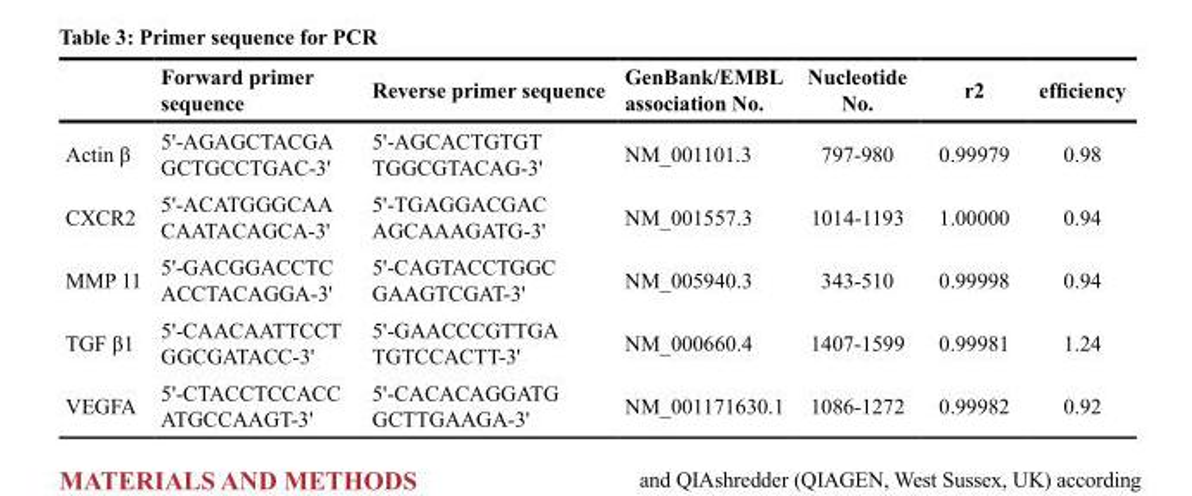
<table><thead><tr><td></td><td>Forward primer sequence</td><td>Reverse primer sequence</td><td>GenBank/EMBL association No.</td><td>Nucleotide No.</td><td>r2</td><td>efficiency</td></tr></thead><tbody><tr><td>Actin β</td><td>5&#x27;-AGAGCTACGA GCTGCCTGAC-3&#x27;</td><td>5&#x27;-AGCACTGTGT TGGCGTACAG-3&#x27;</td><td>NM_001101.3</td><td>797-980</td><td>0.99979</td><td>0.98</td></tr><tr><td>CXCR2</td><td>5&#x27;-ACATGGGCAA CAATACAGCA-3&#x27;</td><td>5&#x27;-TGAGGACGAC AGCAAAGATG-3&#x27;</td><td>NM_001557.3</td><td>1014-1193</td><td>1.00000</td><td>0.94</td></tr><tr><td>MMP 11</td><td>5&#x27;-GACGGACCTC ACCTACAGGA-3&#x27;</td><td>5&#x27;-CAGTACCTGGC GAAGTCGAT-3&#x27;</td><td>NM_005940.3</td><td>343-510</td><td>0.99998</td><td>0.94</td></tr><tr><td>TGF β1</td><td>5&#x27;-CAACAATTCCT GGCGATACC-3&#x27;</td><td>5&#x27;-GAACCCGTTGA TGTCCACTT-3&#x27;</td><td>NM_000660.4</td><td>1407-1599</td><td>0.99981</td><td>1.24</td></tr><tr><td>VEGFA</td><td>5&#x27;-CTACCTCCACC ATGCCAAGT-3&#x27;</td><td>5&#x27;-CACACAGGATG GCTTGAAGA-3&#x27;</td><td>NM_001171630.1</td><td>1086-1272</td><td>0.99982</td><td>0.92</td></tr></tbody></table>